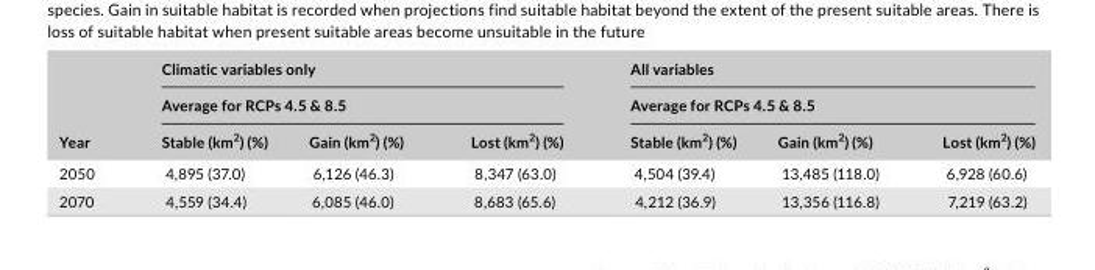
<table><thead><tr><td rowspan="3">Year</td><td rowspan="2" colspan="3">Climatic variables only Average for RCPs 4.5 &amp; 8.5</td><td rowspan="2" colspan="3">All variables Average for RCPs 4.5 &amp; 8.5</td></tr><tr></tr><tr><td>Stable (km<sup>2</sup>) (%)</td><td>Gain (km<sup>2</sup>) (%)</td><td>Lost (km<sup>2</sup>) (%)</td><td>Stable (km<sup>2</sup>) (%)</td><td>Gain (km<sup>2</sup>) (%)</td><td>Lost (km<sup>2</sup>) (%)</td></tr></thead><tbody><tr><td>2050</td><td>4,895 (37.0)</td><td>6,126 (46.3)</td><td>8,347 (63.0)</td><td>4,504 (39.4)</td><td>13,485 (118.0)</td><td>6,928 (60.6)</td></tr><tr><td>2070</td><td>4,559 (34.4)</td><td>6,085 (46.0)</td><td>8,683 (65.6)</td><td>4,212 (36.9)</td><td>13,356 (116.8)</td><td>7,219 (63.2)</td></tr></tbody></table>